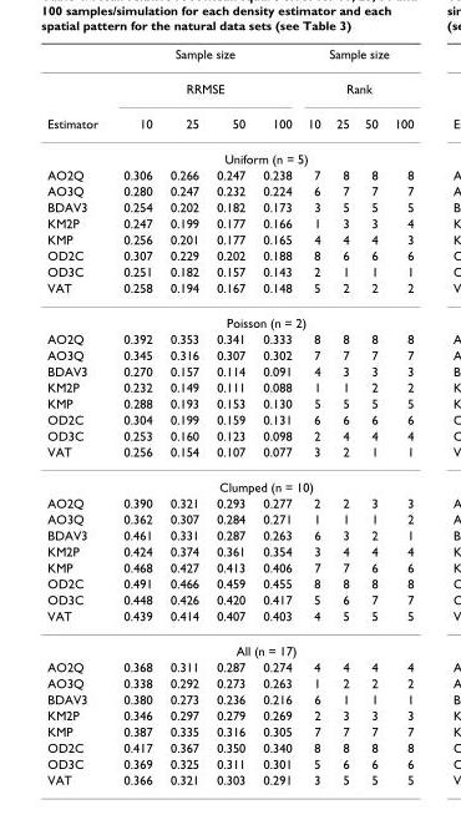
<table><thead><tr><td rowspan="3">Estimator</td><td rowspan="2" colspan="4">Sample size RRMSE</td><td rowspan="2" colspan="4">Sample size Rank</td></tr><tr></tr><tr><td>10</td><td>25</td><td>50</td><td>100</td><td>10</td><td>25</td><td>50</td><td>100</td></tr></thead><tbody><tr><td></td><td colspan="8">Uniform (n = 5)</td></tr><tr><td>AO2Q</td><td>0.306</td><td>0.266</td><td>0.247</td><td>0.238</td><td>7</td><td>8</td><td>8</td><td>8</td></tr><tr><td>AO3Q</td><td>0.280</td><td>0.247</td><td>0.232</td><td>0.224</td><td>6</td><td>7</td><td>7</td><td>7</td></tr><tr><td>BDAV3</td><td>0.254</td><td>0.202</td><td>0.182</td><td>0.173</td><td>3</td><td>5</td><td>5</td><td>5</td></tr><tr><td>KM2P</td><td>0.247</td><td>0.199</td><td>0.177</td><td>0.166</td><td>1</td><td>3</td><td>3</td><td>4</td></tr><tr><td>KMP</td><td>0.256</td><td>0.201</td><td>0.177</td><td>0.165</td><td>4</td><td>4</td><td>4</td><td>3</td></tr><tr><td>OD2C</td><td>0.307</td><td>0.229</td><td>0.202</td><td>0.188</td><td>8</td><td>6</td><td>6</td><td>6</td></tr><tr><td>OD3C</td><td>0.251</td><td>0.182</td><td>0.157</td><td>0.143</td><td>2</td><td>1</td><td>1</td><td>1</td></tr><tr><td rowspan="2">VAT</td><td>0.258</td><td>0.194</td><td>0.167</td><td>0.148</td><td>5</td><td>2</td><td>2</td><td>2</td></tr><tr><td colspan="8">Poisson (n = 2)</td></tr><tr><td>AO2Q</td><td>0.392</td><td>0.353</td><td>0.341</td><td>0.333</td><td>8</td><td>8</td><td>8</td><td>8</td></tr><tr><td>AO3Q</td><td>0.345</td><td>0.316</td><td>0.307</td><td>0.302</td><td>7</td><td>7</td><td>7</td><td>7</td></tr><tr><td>BDAV3</td><td>0.270</td><td>0.157</td><td>0.114</td><td>0.091</td><td>4</td><td>3</td><td>3</td><td>3</td></tr><tr><td>KM2P</td><td>0.232</td><td>0.149</td><td>0.111</td><td>0.088</td><td>1</td><td>1</td><td>2</td><td>2</td></tr><tr><td>KMP</td><td>0.288</td><td>0.193</td><td>0.153</td><td>0.130</td><td>5</td><td>5</td><td>5</td><td>5</td></tr><tr><td>OD2C</td><td>0.304</td><td>0.199</td><td>0.159</td><td>0.131</td><td>6</td><td>6</td><td>6</td><td>6</td></tr><tr><td>OD3C</td><td>0.253</td><td>0.160</td><td>0.123</td><td>0.098</td><td>2</td><td>4</td><td>4</td><td>4</td></tr><tr><td rowspan="2">VAT</td><td>0.256</td><td>0.154</td><td>0.107</td><td>0.077</td><td>3</td><td>2</td><td>1</td><td>1</td></tr><tr><td colspan="8">Clumped (n = 10)</td></tr><tr><td>AO2Q</td><td>0.390</td><td>0.321</td><td>0.293</td><td>0.277</td><td>2</td><td>2</td><td>3</td><td>3</td></tr><tr><td>AO3Q</td><td>0.362</td><td>0.307</td><td>0.284</td><td>0.271</td><td>1</td><td>1</td><td>1</td><td>2</td></tr><tr><td>BDAV3</td><td>0.461</td><td>0.331</td><td>0.287</td><td>0.263</td><td>6</td><td>3</td><td>2</td><td>1</td></tr><tr><td>KM2P</td><td>0.424</td><td>0.374</td><td>0.361</td><td>0.354</td><td>3</td><td>4</td><td>4</td><td>4</td></tr><tr><td>KMP</td><td>0.468</td><td>0.427</td><td>0.413</td><td>0.406</td><td>7</td><td>7</td><td>6</td><td>6</td></tr><tr><td>OD2C</td><td>0.491</td><td>0.466</td><td>0.459</td><td>0.455</td><td>8</td><td>8</td><td>8</td><td>8</td></tr><tr><td>OD3C</td><td>0.448</td><td>0.426</td><td>0.420</td><td>0.417</td><td>5</td><td>6</td><td>7</td><td>7</td></tr><tr><td rowspan="2">VAT</td><td>0.439</td><td>0.414</td><td>0.407</td><td>0.403</td><td>4</td><td>5</td><td>5</td><td>5</td></tr><tr><td colspan="8">All (n = 17)</td></tr><tr><td>AO2Q</td><td>0.368</td><td>0.311</td><td>0.287</td><td>0.274</td><td>4</td><td>4</td><td>4</td><td>4</td></tr><tr><td>AO3Q</td><td>0.338</td><td>0.292</td><td>0.273</td><td>0.263</td><td>1</td><td>2</td><td>2</td><td>2</td></tr><tr><td>BDAV3</td><td>0.380</td><td>0.273</td><td>0.236</td><td>0.216</td><td>6</td><td>1</td><td>1</td><td>1</td></tr><tr><td>KM2P</td><td>0.346</td><td>0.297</td><td>0.279</td><td>0.269</td><td>2</td><td>3</td><td>3</td><td>3</td></tr><tr><td>KMP</td><td>0.387</td><td>0.335</td><td>0.316</td><td>0.305</td><td>7</td><td>7</td><td>7</td><td>7</td></tr><tr><td>OD2C</td><td>0.417</td><td>0.367</td><td>0.350</td><td>0.340</td><td>8</td><td>8</td><td>8</td><td>8</td></tr><tr><td>OD3C</td><td>0.369</td><td>0.325</td><td>0.311</td><td>0.301</td><td>5</td><td>6</td><td>6</td><td>6</td></tr><tr><td>VAT</td><td>0.366</td><td>0.321</td><td>0.303</td><td>0.291</td><td>3</td><td>5</td><td>5</td><td>5</td></tr></tbody></table>